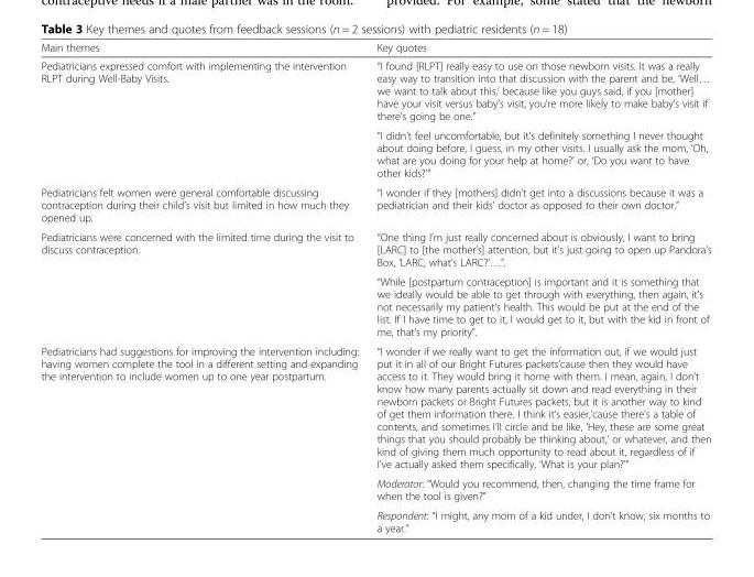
<table><thead><tr><td>Main themes</td><td>Key quotes</td></tr></thead><tbody><tr><td rowspan="2">Pediatricians expressed comfort with implementing the intervention RLPT during Well-Baby Visits.</td><td>“I found [RLPT] really easy to use on those newborn visits. It was a really easy way to transition into that discussion with the parent and be, ‘Well… we want to talk about this,’ because like you guys said, if you [mother] have your visit versus baby’s visit, you’re more likely to make baby’s visit if there’s going be one.”</td></tr><tr><td>“I didn’t feel uncomfortable, but it’s definitely something I never thought about doing before, I guess, in my other visits. I usually ask the mom, ‘Oh, what are you doing for your help at home?’ or, ‘Do you want to have other kids?’”</td></tr><tr><td>Pediatricians felt women were general comfortable discussing contraception during their child’s visit but limited in how much they opened up.</td><td>“I wonder if they [mothers] didn’t get into a discussions because it was a pediatrician and their kids’ doctor as opposed to their own doctor.”</td></tr><tr><td rowspan="2">Pediatricians were concerned with the limited time during the visit to discuss contraception.</td><td>“One thing I’m just really concerned about is obviously, I want to bring [LARC] to [the mother’s] attention, but it’s just going to open up Pandora’s Box, ‘LARC, what’s LARC?’…”.</td></tr><tr><td>“While [postpartum contraception] is important and it is something that we ideally would be able to get through with everything, then again, it’s not necessarily my patient’s health. This would be put at the end of the list. If I have time to get to it, I would get to it, but with the kid in front of me, that’s my priority”.</td></tr><tr><td rowspan="3">Pediatricians had suggestions for improving the intervention including: having women complete the tool in a different setting and expanding the intervention to include women up to one year postpartum.</td><td>“I wonder if we really want to get the information out, if we would just put it in all of our Bright Futures packets’cause then they would have access to it. They would bring it home with them. I mean, again, I don’t know how many parents actually sit down and read everything in their newborn packets or Bright Futures packets, but it is another way to kind of get them information there. I think it’s easier,’cause there’s a table of contents, and sometimes I’ll circle and be like, ‘Hey, these are some great things that you should probably be thinking about,’ or whatever, and then kind of giving them much opportunity to read about it, regardless of if I’ve actually asked them specifically, ‘What is your plan?’”</td></tr><tr><td>Moderator: “Would you recommend, then, changing the time frame for when the tool is given?”</td></tr><tr><td>Respondent: “I might, any mom of a kid under, I don’t know, six months to a year.”</td></tr></tbody></table>